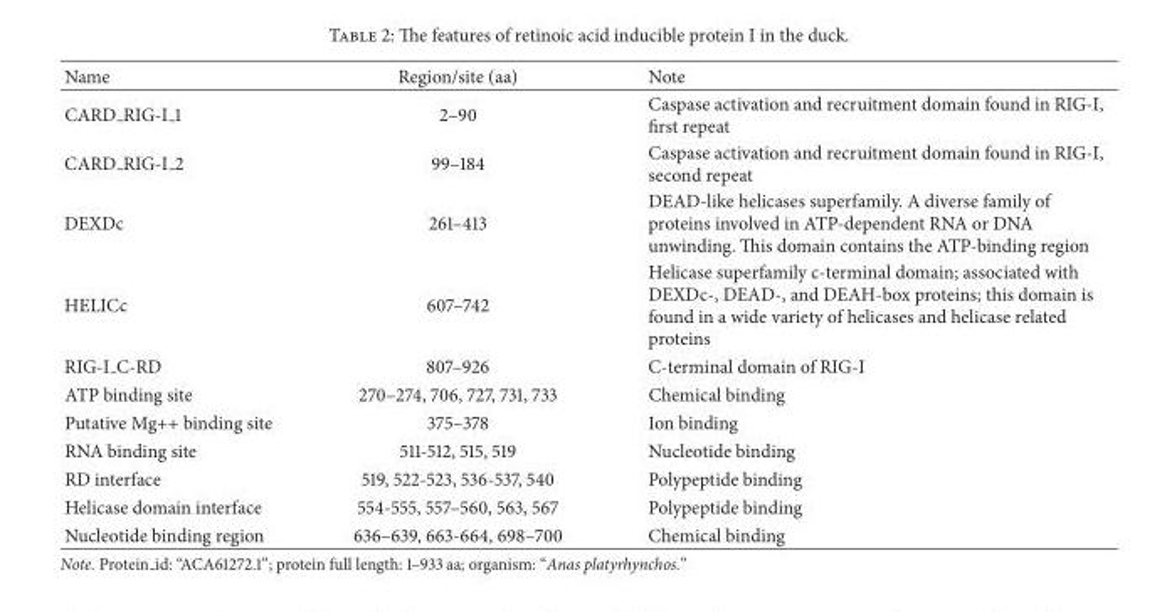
<table><thead><tr><td>Name</td><td>Region/site (aa)</td><td>Note</td></tr></thead><tbody><tr><td>CARD <sub>RIG-I</sub> 1</td><td>2–90</td><td>Caspase activation and recruitment domain found in RIG-I, first repeat</td></tr><tr><td>CARD <sub>RIG-I</sub> 2</td><td>99–184</td><td>Caspase activation and recruitment domain found in RIG-I, second repeat</td></tr><tr><td>DEXDc</td><td>261–413</td><td>DEAD-like helicases superfamily. A diverse family of proteins involved in ATP-dependent RNA or DNA unwinding. This domain contains the ATP-binding region</td></tr><tr><td>HELICc</td><td>607–742</td><td>Helicase superfamily c-terminal domain; associated with DEXDc-, DEAD-, and DEAH-box proteins; this domain is found in a wide variety of helicases and helicase related proteins</td></tr><tr><td>RIG-I C-RD</td><td>807–926</td><td>C-terminal domain of RIG-I</td></tr><tr><td>ATP binding site</td><td>270–274, 706, 727, 731, 733</td><td>Chemical binding</td></tr><tr><td>Putative Mg++ binding site</td><td>375–378</td><td>Ion binding</td></tr><tr><td>RNA binding site</td><td>511-512, 515, 519</td><td>Nucleotide binding</td></tr><tr><td>RD interface</td><td>519, 522-523, 536-537, 540</td><td>Polypeptide binding</td></tr><tr><td>Helicase domain interface</td><td>554-555, 557–560, 563, 567</td><td>Polypeptide binding</td></tr><tr><td>Nucleotide binding region</td><td>636–639, 663-664, 698–700</td><td>Chemical binding</td></tr></tbody></table>